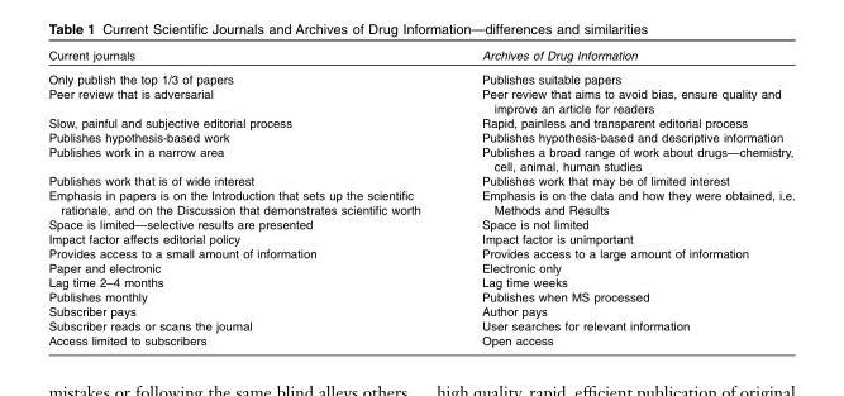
<table><thead><tr><td>Current journals</td><td>Archives of Drug Information</td></tr></thead><tbody><tr><td>Only publish the top 1/3 of papers</td><td>Publishes suitable papers</td></tr><tr><td>Peer review that is adversarial</td><td>Peer review that aims to avoid bias, ensure quality and improve an article for readers</td></tr><tr><td>Slow, painful and subjective editorial process</td><td>Rapid, painless and transparent editorial process</td></tr><tr><td>Publishes hypothesis-based work</td><td>Publishes hypothesis-based and descriptive information</td></tr><tr><td>Publishes work in a narrow area</td><td>Publishes a broad range of work about drugs—chemistry, cell, animal, human studies</td></tr><tr><td>Publishes work that is of wide interest</td><td>Publishes work that may be of limited interest</td></tr><tr><td>Emphasis in papers is on the Introduction that sets up the scientific rationale, and on the Discussion that demonstrates scientific worth</td><td>Emphasis is on the data and how they were obtained, i.e. Methods and Results</td></tr><tr><td>Space is limited—selective results are presented</td><td>Space is not limited</td></tr><tr><td>Impact factor affects editorial policy</td><td>Impact factor is unimportant</td></tr><tr><td>Provides access to a small amount of information</td><td>Provides access to a large amount of information</td></tr><tr><td>Paper and electronic</td><td>Electronic only</td></tr><tr><td>Lag time 2–4 months</td><td>Lag time weeks</td></tr><tr><td>Publishes monthly</td><td>Publishes when MS processed</td></tr><tr><td>Subscriber pays</td><td>Author pays</td></tr><tr><td>Subscriber reads or scans the journal</td><td>User searches for relevant information</td></tr><tr><td>Access limited to subscribers</td><td>Open access</td></tr></tbody></table>